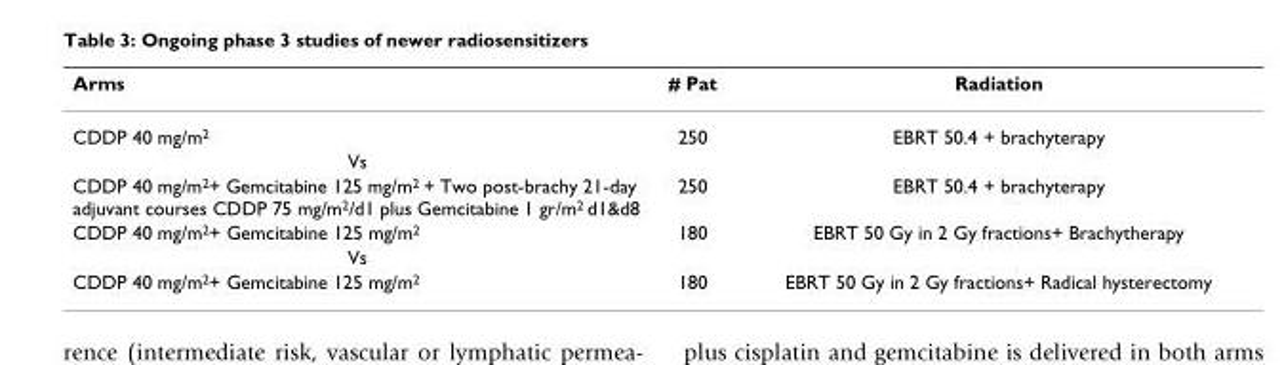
<table><thead><tr><td>Arms</td><td># Pat</td><td>Radiation</td></tr></thead><tbody><tr><td>CDDP 40 mg/m<sup>2</sup></td><td>250</td><td>EBRT 50.4 + brachyterapy</td></tr><tr><td colspan="3">Vs</td></tr><tr><td>CDDP 40 mg/m<sup>2</sup>+ Gemcitabine 125 mg/m<sup>2</sup> + Two post-brachy 21-day adjuvant courses CDDP 75 mg/m<sup>2</sup>/d1 plus Gemcitabine 1 gr/m<sup>2</sup> d1&amp;d8</td><td>250</td><td>EBRT 50.4 + brachyterapy</td></tr><tr><td>CDDP 40 mg/m<sup>2</sup>+ Gemcitabine 125 mg/m<sup>2</sup></td><td>180</td><td>EBRT 50 Gy in 2 Gy fractions+ Brachytherapy</td></tr><tr><td colspan="3">Vs</td></tr><tr><td>CDDP 40 mg/m<sup>2</sup>+ Gemcitabine 125 mg/m<sup>2</sup></td><td>180</td><td>EBRT 50 Gy in 2 Gy fractions+ Radical hysterectomy</td></tr></tbody></table>